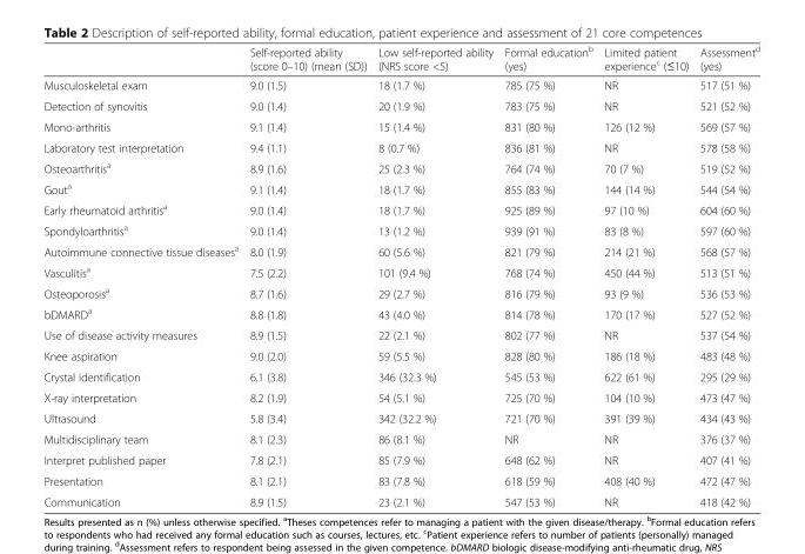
<table><thead><tr><td></td><td>Self-reported ability (score 0–10) (mean (SD))</td><td>Low self-reported ability (NRS score &lt;5)</td><td>Formal education<sup>b</sup> (yes)</td><td>Limited patient experience<sup>c</sup> (≤10)</td><td>Assessment<sup>d</sup> (yes)</td></tr></thead><tbody><tr><td>Musculoskeletal exam</td><td>9.0 (1.5)</td><td>18 (1.7 %)</td><td>785 (75 %)</td><td>NR</td><td>517 (51 %)</td></tr><tr><td>Detection of synovitis</td><td>9.0 (1.4)</td><td>20 (1.9 %)</td><td>783 (75 %)</td><td>NR</td><td>521 (52 %)</td></tr><tr><td>Mono-arthritis</td><td>9.1 (1.4)</td><td>15 (1.4 %)</td><td>831 (80 %)</td><td>126 (12 %)</td><td>569 (57 %)</td></tr><tr><td>Laboratory test interpretation</td><td>9.4 (1.1)</td><td>8 (0.7 %)</td><td>836 (81 %)</td><td>NR</td><td>578 (58 %)</td></tr><tr><td>Osteoarthritis<sup>a</sup></td><td>8.9 (1.6)</td><td>25 (2.3 %)</td><td>764 (74 %)</td><td>70 (7 %)</td><td>519 (52 %)</td></tr><tr><td>Gout<sup>a</sup></td><td>9.1 (1.4)</td><td>18 (1.7 %)</td><td>855 (83 %)</td><td>144 (14 %)</td><td>544 (54 %)</td></tr><tr><td>Early rheumatoid arthritis<sup>a</sup></td><td>9.0 (1.4)</td><td>18 (1.7 %)</td><td>925 (89 %)</td><td>97 (10 %)</td><td>604 (60 %)</td></tr><tr><td>Spondyloarthritis<sup>a</sup></td><td>9.0 (1.4)</td><td>13 (1.2 %)</td><td>939 (91 %)</td><td>83 (8 %)</td><td>597 (60 %)</td></tr><tr><td>Autoimmune connective tissue diseases<sup>a</sup></td><td>8.0 (1.9)</td><td>60 (5.6 %)</td><td>821 (79 %)</td><td>214 (21 %)</td><td>568 (57 %)</td></tr><tr><td>Vasculitis<sup>a</sup></td><td>7.5 (2.2)</td><td>101 (9.4 %)</td><td>768 (74 %)</td><td>450 (44 %)</td><td>513 (51 %)</td></tr><tr><td>Osteoporosis<sup>a</sup></td><td>8.7 (1.6)</td><td>29 (2.7 %)</td><td>816 (79 %)</td><td>93 (9 %)</td><td>536 (53 %)</td></tr><tr><td>bDMARD<sup>a</sup></td><td>8.8 (1.8)</td><td>43 (4.0 %)</td><td>814 (78 %)</td><td>170 (17 %)</td><td>527 (52 %)</td></tr><tr><td>Use of disease activity measures</td><td>8.9 (1.5)</td><td>22 (2.1 %)</td><td>802 (77 %)</td><td>NR</td><td>537 (54 %)</td></tr><tr><td>Knee aspiration</td><td>9.0 (2.0)</td><td>59 (5.5 %)</td><td>828 (80 %)</td><td>186 (18 %)</td><td>483 (48 %)</td></tr><tr><td>Crystal identification</td><td>6.1 (3.8)</td><td>346 (32.3 %)</td><td>545 (53 %)</td><td>622 (61 %)</td><td>295 (29 %)</td></tr><tr><td>X-ray interpretation</td><td>8.2 (1.9)</td><td>54 (5.1 %)</td><td>725 (70 %)</td><td>104 (10 %)</td><td>473 (47 %)</td></tr><tr><td>Ultrasound</td><td>5.8 (3.4)</td><td>342 (32.2 %)</td><td>721 (70 %)</td><td>391 (39 %)</td><td>434 (43 %)</td></tr><tr><td>Multidisciplinary team</td><td>8.1 (2.3)</td><td>86 (8.1 %)</td><td>NR</td><td>NR</td><td>376 (37 %)</td></tr><tr><td>Interpret published paper</td><td>7.8 (2.1)</td><td>85 (7.9 %)</td><td>648 (62 %)</td><td>NR</td><td>407 (41 %)</td></tr><tr><td>Presentation</td><td>8.1 (2.1)</td><td>83 (7.8 %)</td><td>618 (59 %)</td><td>408 (40 %)</td><td>472 (47 %)</td></tr><tr><td>Communication</td><td>8.9 (1.5)</td><td>23 (2.1 %)</td><td>547 (53 %)</td><td>NR</td><td>418 (42 %)</td></tr></tbody></table>